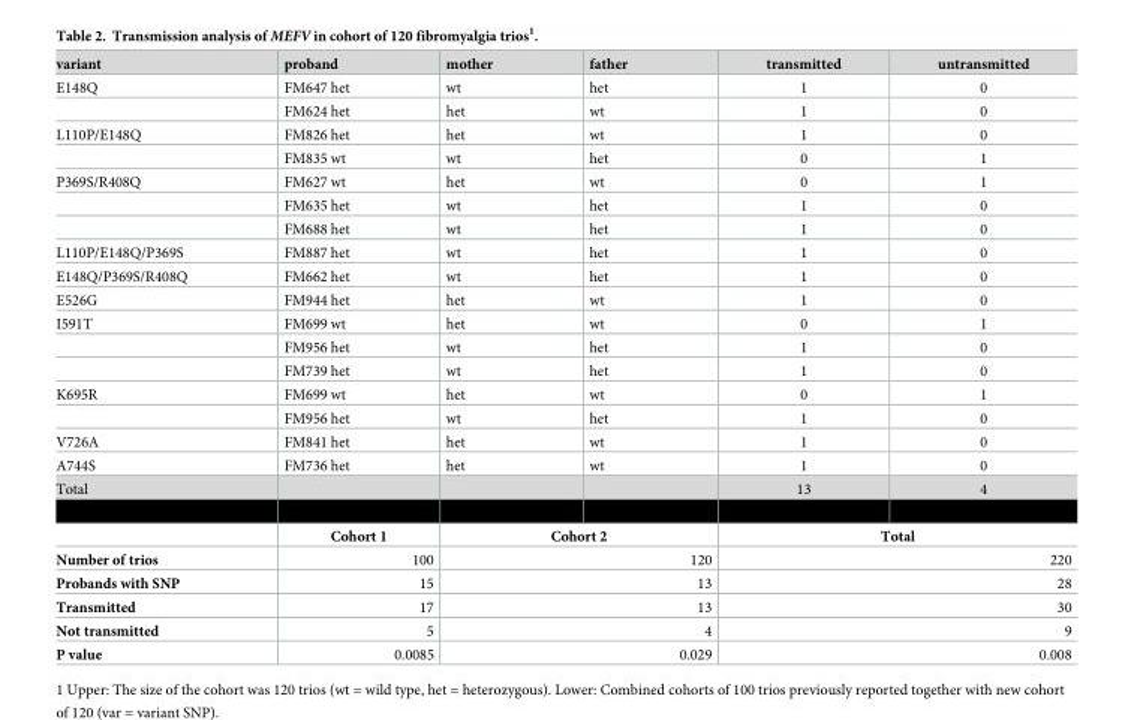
<table><tbody><tr><td>variant</td><td>proband</td><td>mother</td><td>father</td><td>transmitted</td><td>untransmitted</td></tr><tr><td rowspan="2">E148Q</td><td>FM647 het</td><td>wt</td><td>het</td><td>1</td><td>0</td></tr><tr><td>FM624 het</td><td>het</td><td>wt</td><td>1</td><td>0</td></tr><tr><td rowspan="2">L110P/E148Q</td><td>FM826 het</td><td>het</td><td>wt</td><td>1</td><td>0</td></tr><tr><td>FM835 wt</td><td>wt</td><td>het</td><td>0</td><td>1</td></tr><tr><td rowspan="3">P369S/R408Q</td><td>FM627 wt</td><td>het</td><td>wt</td><td>0</td><td>1</td></tr><tr><td>FM635 het</td><td>wt</td><td>het</td><td>1</td><td>0</td></tr><tr><td>FM688 het</td><td>wt</td><td>het</td><td>1</td><td>0</td></tr><tr><td>L110P/E148Q/P369S</td><td>FM887 het</td><td>wt</td><td>het</td><td>1</td><td>0</td></tr><tr><td>E148Q/P369S/R408Q</td><td>FM662 het</td><td>wt</td><td>het</td><td>1</td><td>0</td></tr><tr><td>E526G</td><td>FM944 het</td><td>het</td><td>wt</td><td>1</td><td>0</td></tr><tr><td rowspan="3">I591T</td><td>FM699 wt</td><td>het</td><td>wt</td><td>0</td><td>1</td></tr><tr><td>FM956 het</td><td>wt</td><td>het</td><td>1</td><td>0</td></tr><tr><td>FM739 het</td><td>wt</td><td>het</td><td>1</td><td>0</td></tr><tr><td rowspan="2">K695R</td><td>FM699 wt</td><td>het</td><td>wt</td><td>0</td><td>1</td></tr><tr><td>FM956 het</td><td>wt</td><td>het</td><td>1</td><td>0</td></tr><tr><td>V726A</td><td>FM841 het</td><td>het</td><td>wt</td><td>1</td><td>0</td></tr><tr><td>A744S</td><td>FM736 het</td><td>het</td><td>wt</td><td>1</td><td>0</td></tr><tr><td rowspan="2">Total</td><td></td><td></td><td></td><td>13</td><td>4</td></tr><tr><td>Cohort 1</td><td colspan="2">Cohort 2</td><td colspan="2">Total</td></tr><tr><td>Number of trios</td><td>100</td><td colspan="2">120</td><td colspan="2">220</td></tr><tr><td>Probands with SNP</td><td>15</td><td colspan="2">13</td><td colspan="2">28</td></tr><tr><td>Transmitted</td><td>17</td><td colspan="2">13</td><td colspan="2">30</td></tr><tr><td>Not transmitted</td><td>5</td><td colspan="2">4</td><td colspan="2">9</td></tr><tr><td>P value</td><td>0.0085</td><td colspan="2">0.029</td><td colspan="2">0.008</td></tr></tbody></table>